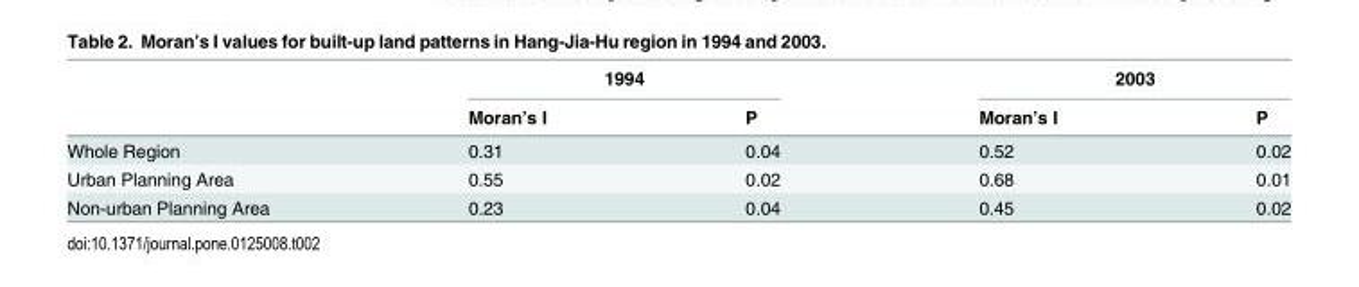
<table><thead><tr><td rowspan="2"></td><td colspan="2">1994</td><td colspan="2">2003</td></tr><tr><td>Moran’s I</td><td>P</td><td>Moran’s I</td><td>P</td></tr></thead><tbody><tr><td>Whole Region</td><td>0.31</td><td>0.04</td><td>0.52</td><td>0.02</td></tr><tr><td>Urban Planning Area</td><td>0.55</td><td>0.02</td><td>0.68</td><td>0.01</td></tr><tr><td>Non-urban Planning Area</td><td>0.23</td><td>0.04</td><td>0.45</td><td>0.02</td></tr></tbody></table>